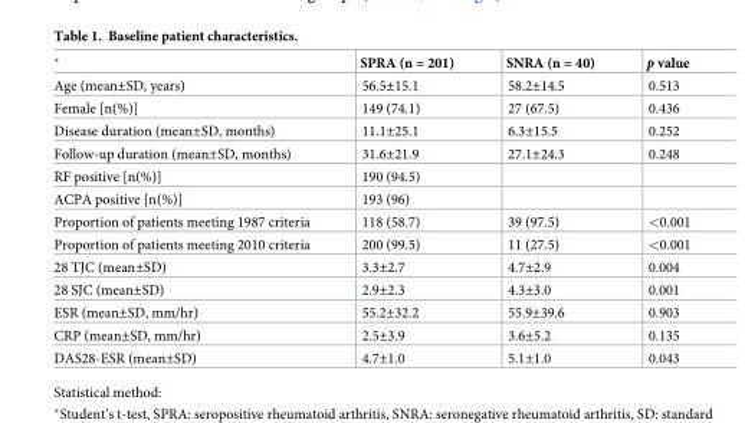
<table><thead><tr><td>*</td><td>SPRA (n = 201)</td><td>SNRA (n = 40)</td><td>p value</td></tr></thead><tbody><tr><td>Age (mean±SD, years)</td><td>56.5±15.1</td><td>58.2±14.5</td><td>0.513</td></tr><tr><td>Female [n(%)]</td><td>149 (74.1)</td><td>27 (67.5)</td><td>0.436</td></tr><tr><td>Disease duration (mean±SD, months)</td><td>11.1±25.1</td><td>6.3±15.5</td><td>0.252</td></tr><tr><td>Follow-up duration (mean±SD, months)</td><td>31.6±21.9</td><td>27.1±24.3</td><td>0.248</td></tr><tr><td>RF positive [n(%)]</td><td>190 (94.5)</td><td></td><td></td></tr><tr><td>ACPA positive [n(%)]</td><td>193 (96)</td><td></td><td></td></tr><tr><td>Proportion of patients meeting 1987 criteria</td><td>118 (58.7)</td><td>39 (97.5)</td><td>&lt;0.001</td></tr><tr><td>Proportion of patients meeting 2010 criteria</td><td>200 (99.5)</td><td>11 (27.5)</td><td>&lt;0.001</td></tr><tr><td>28 TJC (mean±SD)</td><td>3.3±2.7</td><td>4.7±2.9</td><td>0.004</td></tr><tr><td>28 SJC (mean±SD)</td><td>2.9±2.3</td><td>4.3±3.0</td><td>0.001</td></tr><tr><td>ESR (mean±SD, mm/hr)</td><td>55.2±32.2</td><td>55.9±39.6</td><td>0.903</td></tr><tr><td>CRP (mean±SD, mm/hr)</td><td>2.5±3.9</td><td>3.6±5.2</td><td>0.135</td></tr><tr><td>DAS28-ESR (mean±SD)</td><td>4.7±1.0</td><td>5.1±1.0</td><td>0.043</td></tr></tbody></table>